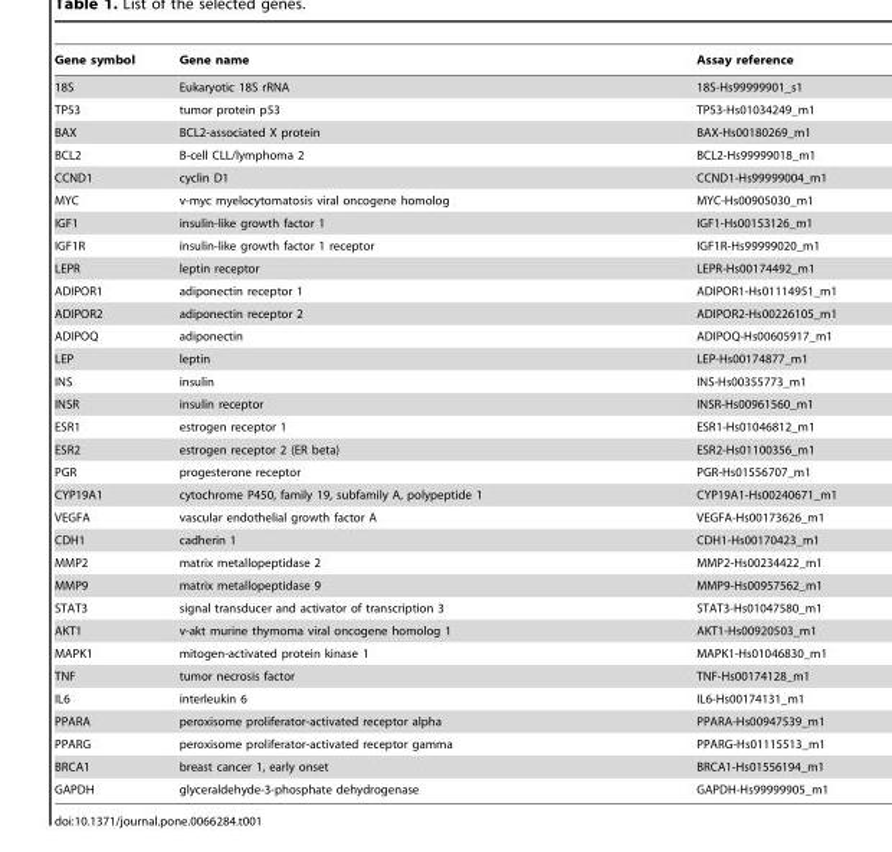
<table><thead><tr><td>Gene symbol</td><td>Gene name</td><td>Assay reference</td></tr></thead><tbody><tr><td>18S</td><td>Eukaryotic 18S rRNA</td><td>18S-Hs99999901_s1</td></tr><tr><td>TP53</td><td>tumor protein p53</td><td>TP53-Hs01034249_m1</td></tr><tr><td>BAX</td><td>BCL2-associated X protein</td><td>BAX-Hs00180269_m1</td></tr><tr><td>BCL2</td><td>B-cell CLL/lymphoma 2</td><td>BCL2-Hs99999018_m1</td></tr><tr><td>CCND1</td><td>cyclin D1</td><td>CCND1-Hs99999004_m1</td></tr><tr><td>MYC</td><td>v-myc myelocytomatosis viral oncogene homolog</td><td>MYC-Hs00905030_m1</td></tr><tr><td>IGF1</td><td>insulin-like growth factor 1</td><td>IGF1-Hs00153126_m1</td></tr><tr><td>IGF1R</td><td>insulin-like growth factor 1 receptor</td><td>IGF1R-Hs99999020_m1</td></tr><tr><td>LEPR</td><td>leptin receptor</td><td>LEPR-Hs00174492_m1</td></tr><tr><td>ADIPOR1</td><td>adiponectin receptor 1</td><td>ADIPOR1-Hs01114951_m1</td></tr><tr><td>ADIPOR2</td><td>adiponectin receptor 2</td><td>ADIPOR2-Hs00226105_m1</td></tr><tr><td>ADIPOQ</td><td>adiponectin</td><td>ADIPOQ-Hs00605917_m1</td></tr><tr><td>LEP</td><td>leptin</td><td>LEP-Hs00174877_m1</td></tr><tr><td>INS</td><td>insulin</td><td>INS-Hs00355773_m1</td></tr><tr><td>INSR</td><td>insulin receptor</td><td>INSR-Hs00961560_m1</td></tr><tr><td>ESR1</td><td>estrogen receptor 1</td><td>ESR1-Hs01046812_m1</td></tr><tr><td>ESR2</td><td>estrogen receptor 2 (ER beta)</td><td>ESR2-Hs01100356_m1</td></tr><tr><td>PGR</td><td>progesterone receptor</td><td>PGR-Hs01556707_m1</td></tr><tr><td>CYP19A1</td><td>cytochrome P450, family 19, subfamily A, polypeptide 1</td><td>CYP19A1-Hs00240671_m1</td></tr><tr><td>VEGFA</td><td>vascular endothelial growth factor A</td><td>VEGFA-Hs00173626_m1</td></tr><tr><td>CDH1</td><td>cadherin 1</td><td>CDH1-Hs00170423_m1</td></tr><tr><td>MMP2</td><td>matrix metallopeptidase 2</td><td>MMP2-Hs00234422_m1</td></tr><tr><td>MMP9</td><td>matrix metallopeptidase 9</td><td>MMP9-Hs00957562_m1</td></tr><tr><td>STAT3</td><td>signal transducer and activator of transcription 3</td><td>STAT3-Hs01047580_m1</td></tr><tr><td>AKT1</td><td>v-akt murine thymoma viral oncogene homolog 1</td><td>AKT1-Hs00920503_m1</td></tr><tr><td>MAPK1</td><td>mitogen-activated protein kinase 1</td><td>MAPK1-Hs01046830_m1</td></tr><tr><td>TNF</td><td>tumor necrosis factor</td><td>TNF-Hs00174128_m1</td></tr><tr><td>IL6</td><td>interleukin 6</td><td>IL6-Hs00174131_m1</td></tr><tr><td>PPARA</td><td>peroxisome proliferator-activated receptor alpha</td><td>PPARA-Hs00947539_m1</td></tr><tr><td>PPARG</td><td>peroxisome proliferator-activated receptor gamma</td><td>PPARG-Hs01115513_m1</td></tr><tr><td>BRCA1</td><td>breast cancer 1, early onset</td><td>BRCA1-Hs01556194_m1</td></tr><tr><td>GAPDH</td><td>glyceraldehyde-3-phosphate dehydrogenase</td><td>GAPDH-Hs99999905_m1</td></tr></tbody></table>